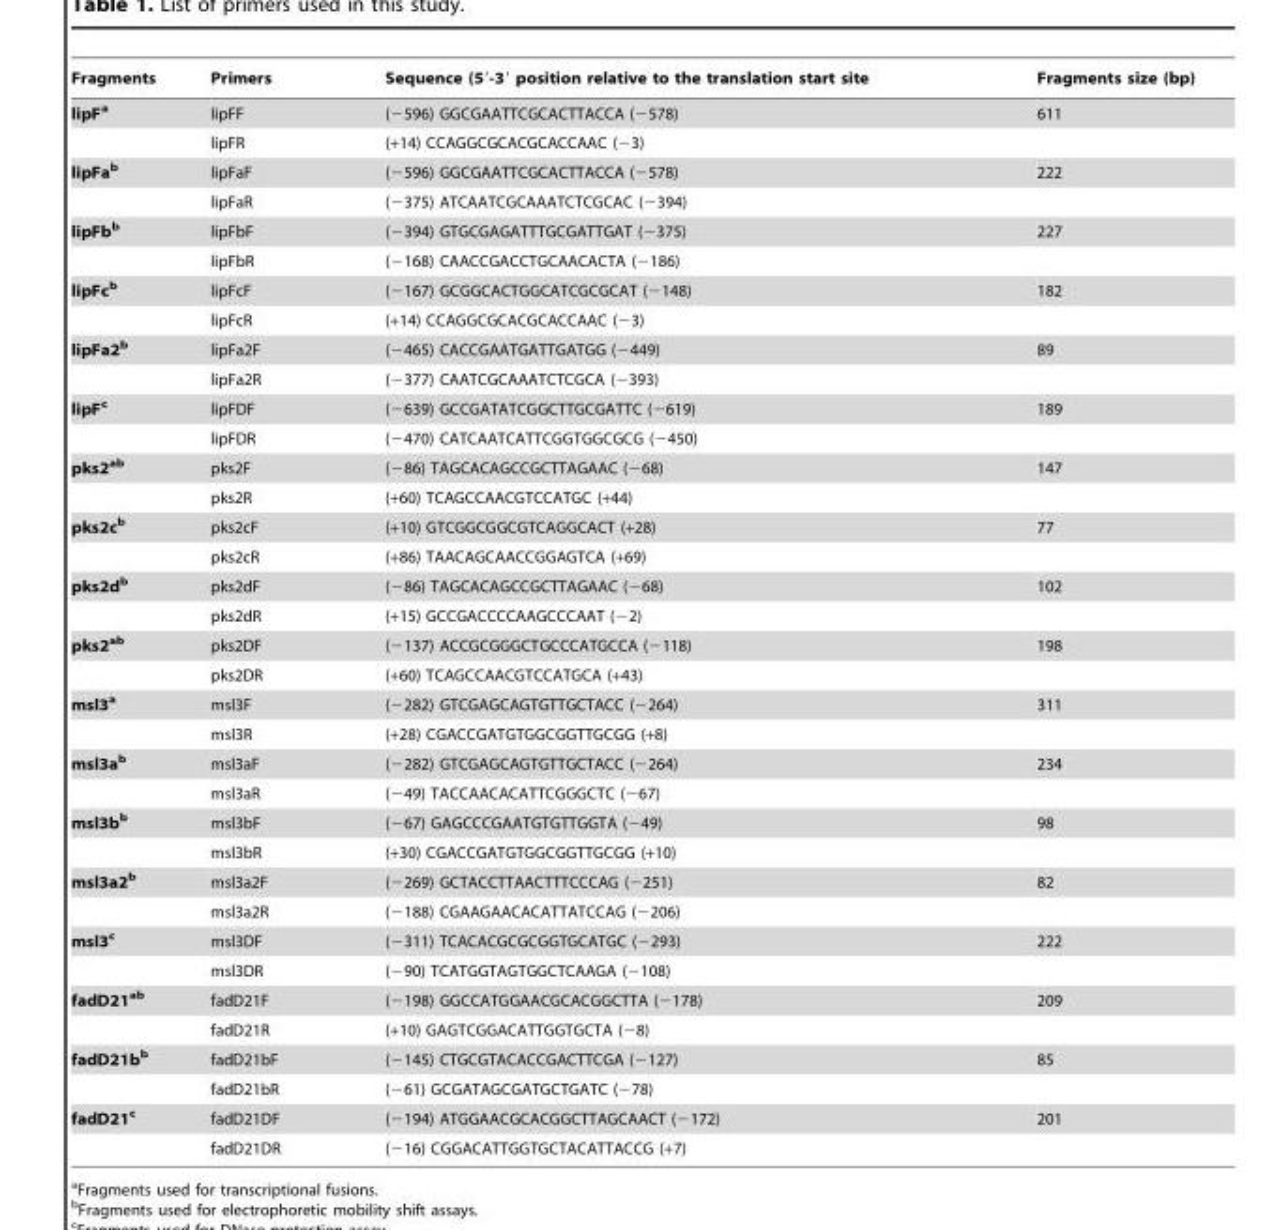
<table><thead><tr><td>Fragments</td><td>Primers</td><td>Sequence (5′-3′ position relative to the translation start site</td><td>Fragments size (bp)</td></tr></thead><tbody><tr><td rowspan="2">lipFa</td><td>lipFF</td><td>(−596) GGCGAATTCGCACTTACCA (−578)</td><td>611</td></tr><tr><td>lipFR</td><td>(+14) CCAGGCGCACGCACCAAC (−3)</td><td></td></tr><tr><td rowspan="2">lipFab</td><td>lipFaF</td><td>(−596) GGCGAATTCGCACTTACCA (−578)</td><td>222</td></tr><tr><td>lipFaR</td><td>(−375) ATCAATCGCAAATCTCGCAC (−394)</td><td></td></tr><tr><td rowspan="2">lipFbb</td><td>lipFbF</td><td>(−394) GTGCGAGATTTGCGATTGAT (−375)</td><td>227</td></tr><tr><td>lipFbR</td><td>(−168) CAACCGACCTGCAACACTA (−186)</td><td></td></tr><tr><td rowspan="2">lipFcb</td><td>lipFcF</td><td>(−167) GCGGCACTGGCATCGCGCAT (−148)</td><td>182</td></tr><tr><td>lipFcR</td><td>(+14) CCAGGCGCACGCACCAAC (−3)</td><td></td></tr><tr><td rowspan="2">lipFa2b</td><td>lipFa2F</td><td>(−465) CACCGAATGATTGATGG (−449)</td><td>89</td></tr><tr><td>lipFa2R</td><td>(−377) CAATCGCAAATCTCGCA (−393)</td><td></td></tr><tr><td rowspan="2">lipFc</td><td>lipFDF</td><td>(−639) GCCGATATCGGCTTGCGATTC (−619)</td><td>189</td></tr><tr><td>lipFDR</td><td>(−470) CATCAATCATTCGGTGGCGCG (−450)</td><td></td></tr><tr><td rowspan="2">pks2ab</td><td>pks2F</td><td>(−86) TAGCACAGCCGCTTAGAAC (−68)</td><td>147</td></tr><tr><td>pks2R</td><td>(+60) TCAGCCAACGTCCATGC (+44)</td><td></td></tr><tr><td rowspan="2">pks2cb</td><td>pks2cF</td><td>(+10) GTCGGCGGCGTCAGGCACT (+28)</td><td>77</td></tr><tr><td>pks2cR</td><td>(+86) TAACAGCAACCGGAGTCA (+69)</td><td></td></tr><tr><td rowspan="2">pks2db</td><td>pks2dF</td><td>(−86) TAGCACAGCCGCTTAGAAC (−68)</td><td>102</td></tr><tr><td>pks2dR</td><td>(+15) GCCGACCCCAAGCCCAAT (−2)</td><td></td></tr><tr><td rowspan="2">pks2ab</td><td>pks2DF</td><td>(−137) ACCGCGGGCTGCCCATGCCA (−118)</td><td>198</td></tr><tr><td>pks2DR</td><td>(+60) TCAGCCAACGTCCATGCA (+43)</td><td></td></tr><tr><td rowspan="2">msl3a</td><td>msl3F</td><td>(−282) GTCGAGCAGTGTTGCTACC (−264)</td><td>311</td></tr><tr><td>msl3R</td><td>(+28) CGACCGATGTGGCGGTTGCGG (+8)</td><td></td></tr><tr><td rowspan="2">msl3ab</td><td>msl3aF</td><td>(−282) GTCGAGCAGTGTTGCTACC (−264)</td><td>234</td></tr><tr><td>msl3aR</td><td>(−49) TACCAACACATTCGGGCTC (−67)</td><td></td></tr><tr><td rowspan="2">msl3bb</td><td>msl3bF</td><td>(−67) GAGCCCGAATGTGTTGGTA (−49)</td><td>98</td></tr><tr><td>msl3bR</td><td>(+30) CGACCGATGTGGCGGTTGCGG (+10)</td><td></td></tr><tr><td rowspan="2">msl3a2b</td><td>msl3a2F</td><td>(−269) GCTACCTTAACTTTCCCAG (−251)</td><td>82</td></tr><tr><td>msl3a2R</td><td>(−188) CGAAGAACACATTATCCAG (−206)</td><td></td></tr><tr><td rowspan="2">msl3c</td><td>msl3DF</td><td>(−311) TCACACGCGCGGTGCATGC (−293)</td><td>222</td></tr><tr><td>msl3DR</td><td>(−90) TCATGGTAGTGGCTCAAGA (−108)</td><td></td></tr><tr><td rowspan="2">fadD21ab</td><td>fadD21F</td><td>(−198) GGCCATGGAACGCACGGCTTA (−178)</td><td>209</td></tr><tr><td>fadD21R</td><td>(+10) GAGTCGGACATTGGTGCTA (−8)</td><td></td></tr><tr><td rowspan="2">fadD21bb</td><td>fadD21bF</td><td>(−145) CTGCGTACACCGACTTCGA (−127)</td><td>85</td></tr><tr><td>fadD21bR</td><td>(−61) GCGATAGCGATGCTGATC (−78)</td><td></td></tr><tr><td rowspan="2">fadD21c</td><td>fadD21DF</td><td>(−194) ATGGAACGCACGGCTTAGCAACT (−172)</td><td>201</td></tr><tr><td>fadD21DR</td><td>(−16) CGGACATTGGTGCTACATTACCG (+7)</td><td></td></tr></tbody></table>